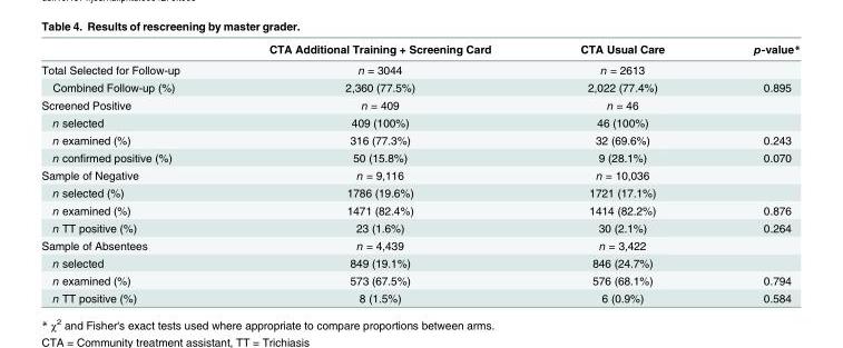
<table><thead><tr><td></td><td>CTA Additional Training + Screening Card</td><td>CTA Usual Care</td><td>p-value*</td></tr></thead><tbody><tr><td>Total Selected for Follow-up</td><td>n = 3044</td><td>n = 2613</td><td></td></tr><tr><td>Combined Follow-up (%)</td><td>2,360 (77.5%)</td><td>2,022 (77.4%)</td><td>0.895</td></tr><tr><td>Screened Positive</td><td>n = 409</td><td>n = 46</td><td></td></tr><tr><td>n selected</td><td>409 (100%)</td><td>46 (100%)</td><td></td></tr><tr><td>n examined (%)</td><td>316 (77.3%)</td><td>32 (69.6%)</td><td>0.243</td></tr><tr><td>n confirmed positive (%)</td><td>50 (15.8%)</td><td>9 (28.1%)</td><td>0.070</td></tr><tr><td>Sample of Negative</td><td>n = 9,116</td><td>n = 10,036</td><td></td></tr><tr><td>n selected (%)</td><td>1786 (19.6%)</td><td>1721 (17.1%)</td><td></td></tr><tr><td>n examined (%)</td><td>1471 (82.4%)</td><td>1414 (82.2%)</td><td>0.876</td></tr><tr><td>n TT positive (%)</td><td>23 (1.6%)</td><td>30 (2.1%)</td><td>0.264</td></tr><tr><td>Sample of Absentees</td><td>n = 4,439</td><td>n = 3,422</td><td></td></tr><tr><td>n selected</td><td>849 (19.1%)</td><td>846 (24.7%)</td><td></td></tr><tr><td>n examined (%)</td><td>573 (67.5%)</td><td>576 (68.1%)</td><td>0.794</td></tr><tr><td>n TT positive (%)</td><td>8 (1.5%)</td><td>6 (0.9%)</td><td>0.584</td></tr></tbody></table>